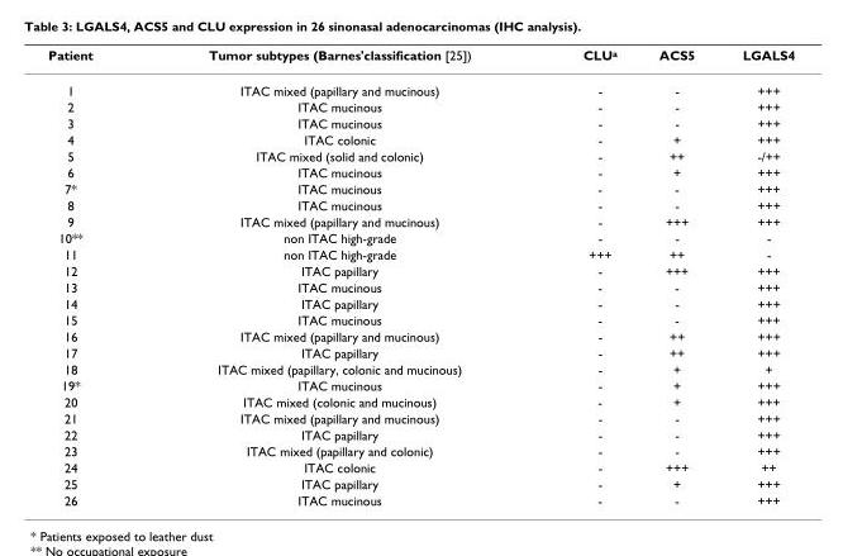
<table><thead><tr><td>Patient</td><td>Tumor subtypes (Barnes&#x27;classification [25])</td><td>CLU<sup>a</sup></td><td>ACS5</td><td>LGALS4</td></tr></thead><tbody><tr><td>1</td><td>ITAC mixed (papillary and mucinous)</td><td>-</td><td>-</td><td>+++</td></tr><tr><td>2</td><td>ITAC mucinous</td><td>-</td><td>-</td><td>+++</td></tr><tr><td>3</td><td>ITAC mucinous</td><td>-</td><td>-</td><td>+++</td></tr><tr><td>4</td><td>ITAC colonic</td><td>-</td><td>+</td><td>+++</td></tr><tr><td>5</td><td>ITAC mixed (solid and colonic)</td><td>-</td><td>++</td><td>-/++</td></tr><tr><td>6</td><td>ITAC mucinous</td><td>-</td><td>+</td><td>+++</td></tr><tr><td>7*</td><td>ITAC mucinous</td><td>-</td><td>-</td><td>+++</td></tr><tr><td>8</td><td>ITAC mucinous</td><td>-</td><td>-</td><td>+++</td></tr><tr><td>9</td><td>ITAC mixed (papillary and mucinous)</td><td>-</td><td>+++</td><td>+++</td></tr><tr><td>10**</td><td>non ITAC high-grade</td><td>-</td><td>-</td><td>-</td></tr><tr><td>11</td><td>non ITAC high-grade</td><td>+++</td><td>++</td><td>-</td></tr><tr><td>12</td><td>ITAC papillary</td><td>-</td><td>+++</td><td>+++</td></tr><tr><td>13</td><td>ITAC mucinous</td><td>-</td><td>-</td><td>+++</td></tr><tr><td>14</td><td>ITAC papillary</td><td>-</td><td>-</td><td>+++</td></tr><tr><td>15</td><td>ITAC mucinous</td><td>-</td><td>-</td><td>+++</td></tr><tr><td>16</td><td>ITAC mixed (papillary and mucinous)</td><td>-</td><td>++</td><td>+++</td></tr><tr><td>17</td><td>ITAC papillary</td><td>-</td><td>++</td><td>+++</td></tr><tr><td>18</td><td>ITAC mixed (papillary, colonic and mucinous)</td><td>-</td><td>+</td><td>+</td></tr><tr><td>19*</td><td>ITAC mucinous</td><td>-</td><td>+</td><td>+++</td></tr><tr><td>20</td><td>ITAC mixed (colonic and mucinous)</td><td>-</td><td>+</td><td>+++</td></tr><tr><td>21</td><td>ITAC mixed (papillary and mucinous)</td><td>-</td><td>-</td><td>+++</td></tr><tr><td>22</td><td>ITAC papillary</td><td>-</td><td>-</td><td>+++</td></tr><tr><td>23</td><td>ITAC mixed (papillary and colonic)</td><td>-</td><td>-</td><td>+++</td></tr><tr><td>24</td><td>ITAC colonic</td><td>-</td><td>+++</td><td>++</td></tr><tr><td>25</td><td>ITAC papillary</td><td>-</td><td>+</td><td>+++</td></tr><tr><td>26</td><td>ITAC mucinous</td><td>-</td><td>-</td><td>+++</td></tr></tbody></table>